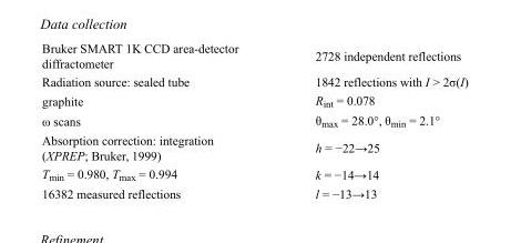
<table><tbody><tr><td>Bruker SMART 1K CCD area-detector diffractometer</td><td>2728 independent reflections</td></tr><tr><td>Radiation source: sealed tube</td><td>1842 reflections with I &gt; 2σ(I)</td></tr><tr><td>graphite</td><td>R<sub>int</sub> = 0.078</td></tr><tr><td>ω scans</td><td>θ<sub>max</sub> = 28.0°, θ<sub>min</sub> = 2.1°</td></tr><tr><td>Absorption correction: integration (XPREP; Bruker, 1999)</td><td>h = −22→25</td></tr><tr><td>T<sub>min</sub> = 0.980, T<sub>max</sub> = 0.994</td><td>k = −14→14</td></tr><tr><td>16382 measured reflections</td><td>l = −13→13</td></tr></tbody></table>